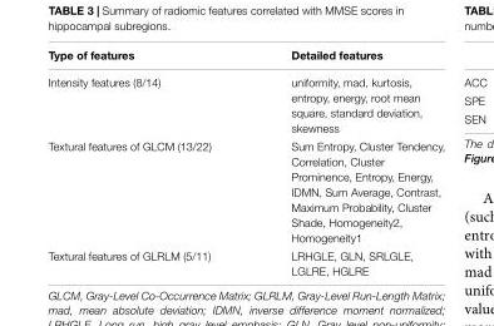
<table><thead><tr><td>Type of features</td><td>Detailed features</td></tr></thead><tbody><tr><td>Intensity features (8/14)</td><td>uniformity, mad, kurtosis, entropy, energy, root mean square, standard deviation, skewness</td></tr><tr><td>Textural features of GLCM (13/22)</td><td>Sum Entropy, Cluster Tendency, Correlation, Cluster Prominence, Entropy, Energy, IDMN, Sum Average, Contrast, Maximum Probability, Cluster Shade, Homogeneity2, Homogeneity1</td></tr><tr><td>Textural features of GLRLM (5/11)</td><td>LRHGLE, GLN, SRLGLE, LGLRE, HGLRE</td></tr></tbody></table>